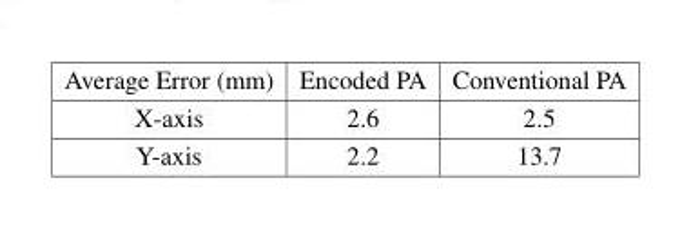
<table><thead><tr><td>Average Error (mm)</td><td>Encoded PA</td><td>Conventional PA</td></tr></thead><tbody><tr><td>X-axis</td><td>2.6</td><td>2.5</td></tr><tr><td>Y-axis</td><td>2.2</td><td>13.7</td></tr></tbody></table>